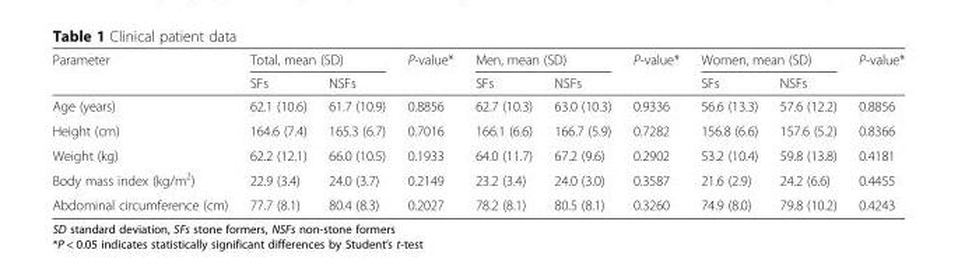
<table><thead><tr><td rowspan="2">Parameter</td><td colspan="2">Total, mean (SD)</td><td rowspan="2">P-value*</td><td colspan="2">Men, mean (SD)</td><td rowspan="2">P-value*</td><td colspan="2">Women, mean (SD)</td><td rowspan="2">P-value*</td></tr><tr><td>SFs</td><td>NSFs</td><td>SFs</td><td>NSFs</td><td>SFs</td><td>NSFs</td></tr></thead><tbody><tr><td>Age (years)</td><td>62.1 (10.6)</td><td>61.7 (10.9)</td><td>0.8856</td><td>62.7 (10.3)</td><td>63.0 (10.3)</td><td>0.9336</td><td>56.6 (13.3)</td><td>57.6 (12.2)</td><td>0.8856</td></tr><tr><td>Height (cm)</td><td>164.6 (7.4)</td><td>165.3 (6.7)</td><td>0.7016</td><td>166.1 (6.6)</td><td>166.7 (5.9)</td><td>0.7282</td><td>156.8 (6.6)</td><td>157.6 (5.2)</td><td>0.8366</td></tr><tr><td>Weight (kg)</td><td>62.2 (12.1)</td><td>66.0 (10.5)</td><td>0.1933</td><td>64.0 (11.7)</td><td>67.2 (9.6)</td><td>0.2902</td><td>53.2 (10.4)</td><td>59.8 (13.8)</td><td>0.4181</td></tr><tr><td>Body mass index (kg/m<sup>2</sup>)</td><td>22.9 (3.4)</td><td>24.0 (3.7)</td><td>0.2149</td><td>23.2 (3.4)</td><td>24.0 (3.0)</td><td>0.3587</td><td>21.6 (2.9)</td><td>24.2 (6.6)</td><td>0.4455</td></tr><tr><td>Abdominal circumference (cm)</td><td>77.7 (8.1)</td><td>80.4 (8.3)</td><td>0.2027</td><td>78.2 (8.1)</td><td>80.5 (8.1)</td><td>0.3260</td><td>74.9 (8.0)</td><td>79.8 (10.2)</td><td>0.4243</td></tr></tbody></table>